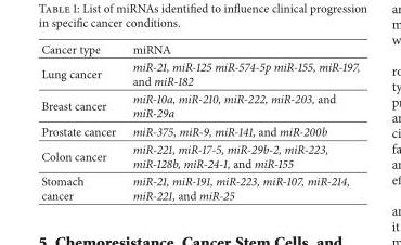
<table><thead><tr><td>Cancer type</td><td>miRNA</td></tr></thead><tbody><tr><td>Lung cancer</td><td>miR-21, miR-125 miR-574-5p miR-155, miR-197, and miR-182</td></tr><tr><td>Breast cancer</td><td>miR-10a, miR-210, miR-222, miR-203, and miR-29a</td></tr><tr><td>Prostate cancer</td><td>miR-375, miR-9, miR-141, and miR-200b</td></tr><tr><td>Colon cancer</td><td>miR-221, miR-17-5, miR-29b-2, miR-223, miR-128b, miR-24-1, and miR-155</td></tr><tr><td>Stomach cancer</td><td>miR-21, miR-191, miR-223, miR-107, miR-214, miR-221, and miR-25</td></tr></tbody></table>